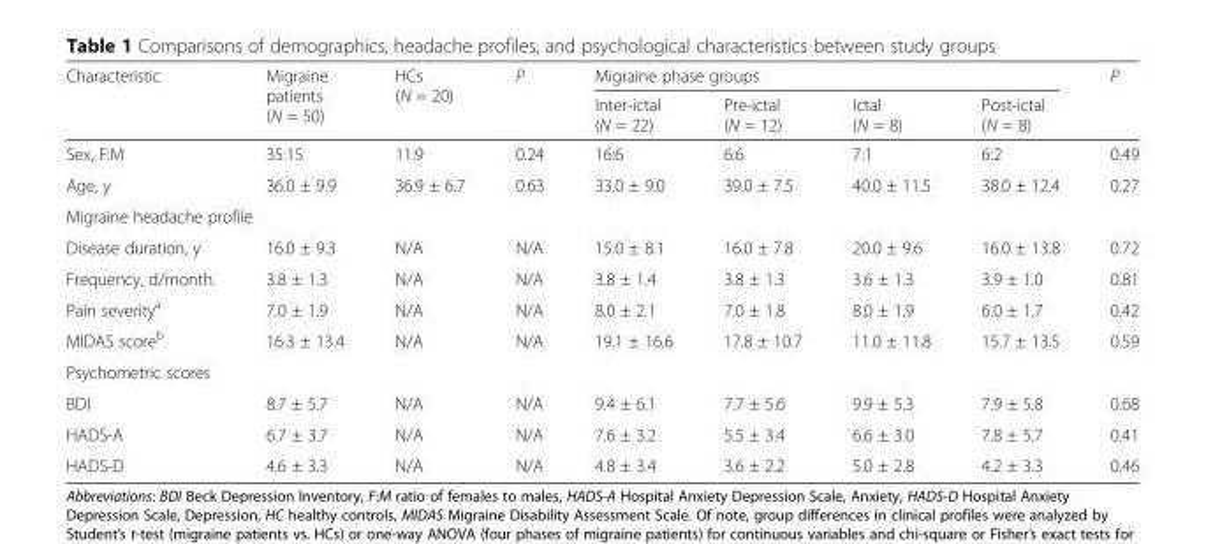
<table><thead><tr><td rowspan="2">Characteristic</td><td rowspan="2">Migraine patients (N = 50)</td><td rowspan="2">HCs (N = 20)</td><td rowspan="2">P</td><td colspan="4">Migraine phase groups</td><td rowspan="2">P</td></tr><tr><td>Inter-ictal (N = 22)</td><td>Pre-ictal (N = 12)</td><td>Ictal (N = 8)</td><td>Post-ictal (N = 8)</td></tr></thead><tbody><tr><td>Sex, F:M</td><td>35:15</td><td>11:9</td><td>0.24</td><td>16:6</td><td>6:6</td><td>7:1</td><td>6:2</td><td>0.49</td></tr><tr><td>Age, y</td><td>36.0 ± 9.9</td><td>36.9 ± 6.7</td><td>0.63</td><td>33.0 ± 9.0</td><td>39.0 ± 7.5</td><td>40.0 ± 11.5</td><td>38.0 ± 12.4</td><td>0.27</td></tr><tr><td colspan="9">Migraine headache profile</td></tr><tr><td>Disease duration, y</td><td>16.0 ± 9.3</td><td>N/A</td><td>N/A</td><td>15.0 ± 8.1</td><td>16.0 ± 7.8</td><td>20.0 ± 9.6</td><td>16.0 ± 13.8</td><td>0.72</td></tr><tr><td>Frequency, d/month.</td><td>3.8 ± 1.3</td><td>N/A</td><td>N/A</td><td>3.8 ± 1.4</td><td>3.8 ± 1.3</td><td>3.6 ± 1.3</td><td>3.9 ± 1.0</td><td>0.81</td></tr><tr><td>Pain severity<sup>a</sup></td><td>7.0 ± 1.9</td><td>N/A</td><td>N/A</td><td>8.0 ± 2.1</td><td>7.0 ± 1.8</td><td>8.0 ± 1.9</td><td>6.0 ± 1.7</td><td>0.42</td></tr><tr><td>MIDAS score<sup>b</sup></td><td>16.3 ± 13.4</td><td>N/A</td><td>N/A</td><td>19.1 ± 16.6</td><td>17.8 ± 10.7</td><td>11.0 ± 11.8</td><td>15.7 ± 13.5</td><td>0.59</td></tr><tr><td colspan="9">Psychometric scores</td></tr><tr><td>BDI</td><td>8.7 ± 5.7</td><td>N/A</td><td>N/A</td><td>9.4 ± 6.1</td><td>7.7 ± 5.6</td><td>9.9 ± 5.3</td><td>7.9 ± 5.8</td><td>0.68</td></tr><tr><td>HADS-A</td><td>6.7 ± 3.7</td><td>N/A</td><td>N/A</td><td>7.6 ± 3.2</td><td>5.5 ± 3.4</td><td>6.6 ± 3.0</td><td>7.8 ± 5.7</td><td>0.41</td></tr><tr><td>HADS-D</td><td>4.6 ± 3.3</td><td>N/A</td><td>N/A</td><td>4.8 ± 3.4</td><td>3.6 ± 2.2</td><td>5.0 ± 2.8</td><td>4.2 ± 3.3</td><td>0.46</td></tr></tbody></table>